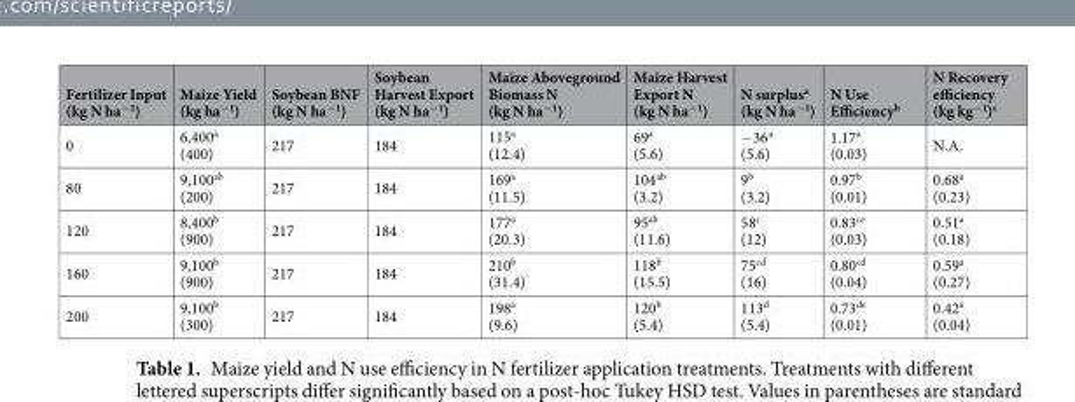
<table><thead><tr><td>Fertilizer Input (kg N ha<sup>−1</sup>)</td><td>Maize Yield (kg ha<sup>−1</sup>)</td><td>Soybean BNF (kg N ha<sup>−1</sup>)</td><td>Soybean Harvest Export (kg N ha<sup>−1</sup>)</td><td>Maize Aboveground Biomass N (kg N ha<sup>−1</sup>)</td><td>Maize Harvest Export N (kg N ha<sup>−1</sup>)</td><td>N surplus<sup>a</sup> (kg N ha<sup>−1</sup>)</td><td>N Use Efficiency<sup>b</sup></td><td>N Recovery efficiency (kg kg<sup>−1</sup>)<sup>c</sup></td></tr></thead><tbody><tr><td>0</td><td>6,400<sup>a</sup> (400)</td><td>217</td><td>184</td><td>115<sup>a</sup> (12.4)</td><td>69<sup>a</sup> (5.6)</td><td>−36<sup>a</sup> (5.6)</td><td>1.17<sup>a</sup> (0.03)</td><td>N.A.</td></tr><tr><td>80</td><td>9,100<sup>ab</sup> (200)</td><td>217</td><td>184</td><td>169<sup>a</sup> (11.5)</td><td>104<sup>ab</sup> (3.2)</td><td>9<sup>b</sup> (3.2)</td><td>0.97<sup>b</sup> (0.01)</td><td>0.68<sup>a</sup> (0.23)</td></tr><tr><td>120</td><td>8,400<sup>b</sup> (900)</td><td>217</td><td>184</td><td>177<sup>a</sup> (20.3)</td><td>95<sup>ab</sup> (11.6)</td><td>58<sup>c</sup> (12)</td><td>0.83<sup>ce</sup> (0.03)</td><td>0.51<sup>a</sup> (0.18)</td></tr><tr><td>160</td><td>9,100<sup>b</sup> (900)</td><td>217</td><td>184</td><td>210<sup>b</sup> (31.4)</td><td>118<sup>b</sup> (15.5)</td><td>75<sup>cd</sup> (16)</td><td>0.80<sup>cd</sup> (0.04)</td><td>0.59<sup>a</sup> (0.27)</td></tr><tr><td>200</td><td>9,100<sup>b</sup> (300)</td><td>217</td><td>184</td><td>198<sup>a</sup> (9.6)</td><td>120<sup>b</sup> (5.4)</td><td>113<sup>d</sup> (5.4)</td><td>0.73<sup>de</sup> (0.01)</td><td>0.42<sup>a</sup> (0.04)</td></tr></tbody></table>